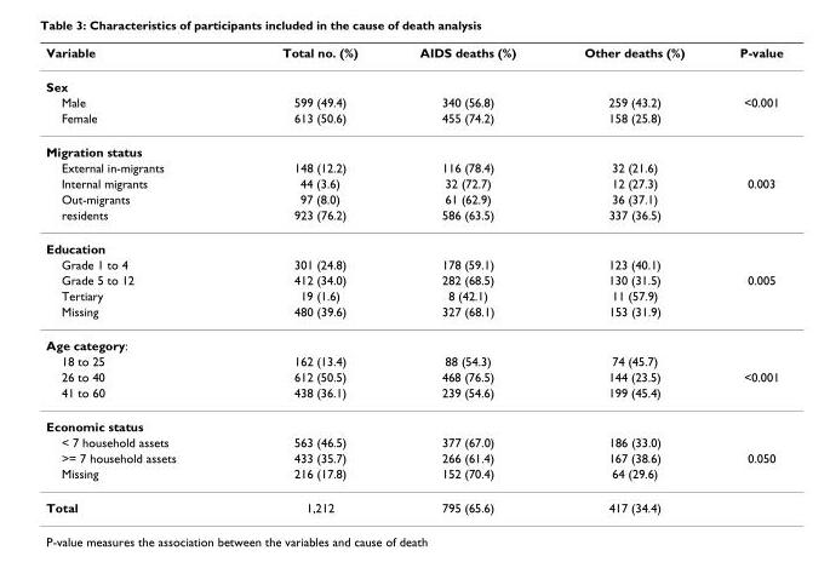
<table><thead><tr><td>Variable</td><td>Total no. (%)</td><td>AIDS deaths (%)</td><td>Other deaths (%)</td><td>P-value</td></tr></thead><tbody><tr><td colspan="5">Sex</td></tr><tr><td>Male</td><td>599 (49.4)</td><td>340 (56.8)</td><td>259 (43.2)</td><td>&lt;0.001</td></tr><tr><td>Female</td><td>613 (50.6)</td><td>455 (74.2)</td><td>158 (25.8)</td><td></td></tr><tr><td colspan="5">Migration status</td></tr><tr><td>External in-migrants</td><td>148 (12.2)</td><td>116 (78.4)</td><td>32 (21.6)</td><td></td></tr><tr><td>Internal migrants</td><td>44 (3.6)</td><td>32 (72.7)</td><td>12 (27.3)</td><td>0.003</td></tr><tr><td>Out-migrants</td><td>97 (8.0)</td><td>61 (62.9)</td><td>36 (37.1)</td><td></td></tr><tr><td>residents</td><td>923 (76.2)</td><td>586 (63.5)</td><td>337 (36.5)</td><td></td></tr><tr><td colspan="5">Education</td></tr><tr><td>Grade 1 to 4</td><td>301 (24.8)</td><td>178 (59.1)</td><td>123 (40.1)</td><td></td></tr><tr><td>Grade 5 to 12</td><td>412 (34.0)</td><td>282 (68.5)</td><td>130 (31.5)</td><td>0.005</td></tr><tr><td>Tertiary</td><td>19 (1.6)</td><td>8 (42.1)</td><td>11 (57.9)</td><td></td></tr><tr><td>Missing</td><td>480 (39.6)</td><td>327 (68.1)</td><td>153 (31.9)</td><td></td></tr><tr><td colspan="5">Age category:</td></tr><tr><td>18 to 25</td><td>162 (13.4)</td><td>88 (54.3)</td><td>74 (45.7)</td><td></td></tr><tr><td>26 to 40</td><td>612 (50.5)</td><td>468 (76.5)</td><td>144 (23.5)</td><td>&lt;0.001</td></tr><tr><td>41 to 60</td><td>438 (36.1)</td><td>239 (54.6)</td><td>199 (45.4)</td><td></td></tr><tr><td colspan="5">Economic status</td></tr><tr><td>&lt; 7 household assets</td><td>563 (46.5)</td><td>377 (67.0)</td><td>186 (33.0)</td><td></td></tr><tr><td>&gt;= 7 household assets</td><td>433 (35.7)</td><td>266 (61.4)</td><td>167 (38.6)</td><td>0.050</td></tr><tr><td>Missing</td><td>216 (17.8)</td><td>152 (70.4)</td><td>64 (29.6)</td><td></td></tr><tr><td>Total</td><td>1,212</td><td>795 (65.6)</td><td>417 (34.4)</td><td></td></tr></tbody></table>